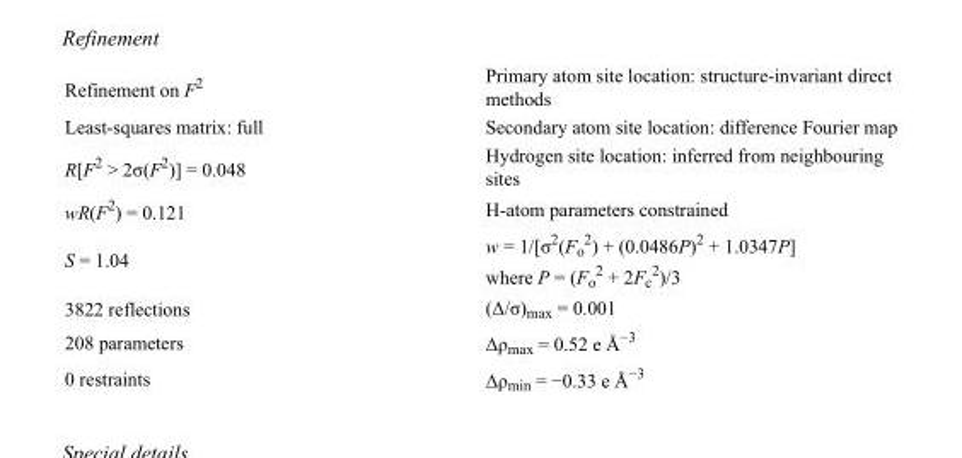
<table><tbody><tr><td>Refinement on F<sup>2</sup></td><td>Primary atom site location: structure-invariant direct methods</td></tr><tr><td>Least-squares matrix: full</td><td>Secondary atom site location: difference Fourier map</td></tr><tr><td>R[F<sup>2</sup> &gt; 2σ(F<sup>2</sup>)] = 0.048</td><td>Hydrogen site location: inferred from neighbouring sites</td></tr><tr><td>wR(F<sup>2</sup>) = 0.121</td><td>H-atom parameters constrained</td></tr><tr><td>S = 1.04</td><td>w = 1/[σ<sup>2</sup>(F<sub>o</sub> <sup>2</sup>) + (0.0486P)<sup>2</sup> + 1.0347P] where P = (F<sub>o</sub> <sup>2</sup> + 2F<sub>c</sub> <sup>2</sup>)/3</td></tr><tr><td>3822 reflections</td><td>(Δ/σ)<sub>max</sub> = 0.001</td></tr><tr><td>208 parameters</td><td>Δρ<sub>max</sub> = 0.52 e Å<sup>−3</sup></td></tr><tr><td>0 restraints</td><td>Δρ<sub>min</sub> = −0.33 e Å<sup>−3</sup></td></tr></tbody></table>